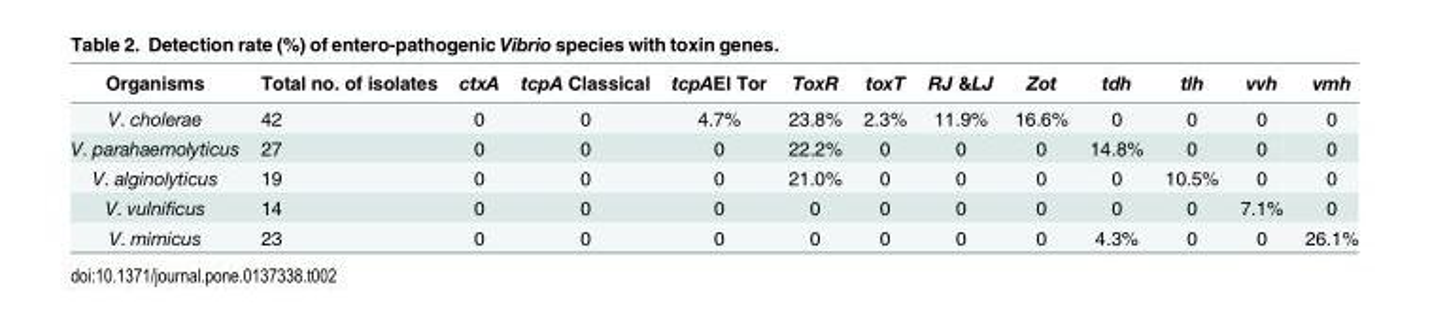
<table><thead><tr><td>Organisms</td><td>Total no. of isolates</td><td>ctxA</td><td>tcpA Classical</td><td>tcpAEl Tor</td><td>ToxR</td><td>toxT</td><td>RJ &amp;LJ</td><td>Zot</td><td>tdh</td><td>tlh</td><td>vvh</td><td>vmh</td></tr></thead><tbody><tr><td>V. cholerae</td><td>42</td><td>0</td><td>0</td><td>4.7%</td><td>23.8%</td><td>2.3%</td><td>11.9%</td><td>16.6%</td><td>0</td><td>0</td><td>0</td><td>0</td></tr><tr><td>V. parahaemolyticus</td><td>27</td><td>0</td><td>0</td><td>0</td><td>22.2%</td><td>0</td><td>0</td><td>0</td><td>14.8%</td><td>0</td><td>0</td><td>0</td></tr><tr><td>V. alginolyticus</td><td>19</td><td>0</td><td>0</td><td>0</td><td>21.0%</td><td>0</td><td>0</td><td>0</td><td>0</td><td>10.5%</td><td>0</td><td>0</td></tr><tr><td>V. vulnificus</td><td>14</td><td>0</td><td>0</td><td>0</td><td>0</td><td>0</td><td>0</td><td>0</td><td>0</td><td>0</td><td>7.1%</td><td>0</td></tr><tr><td>V. mimicus</td><td>23</td><td>0</td><td>0</td><td>0</td><td>0</td><td>0</td><td>0</td><td>0</td><td>4.3%</td><td>0</td><td>0</td><td>26.1%</td></tr></tbody></table>